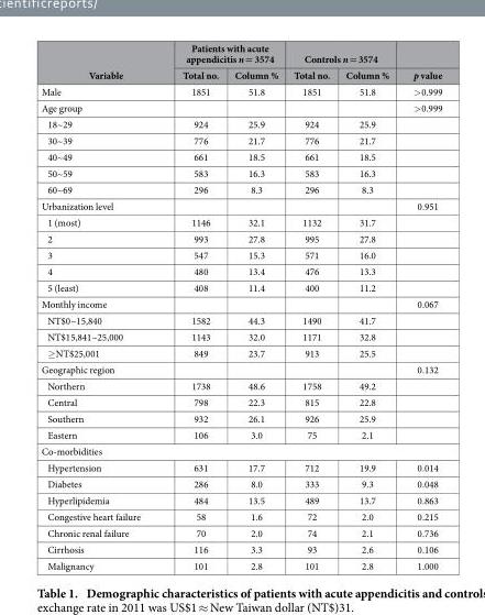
<table><thead><tr><td rowspan="2">Variable</td><td colspan="2">Patients with acute appendicitis n = 3574</td><td colspan="2">Controls n = 3574</td><td rowspan="2">p value</td></tr><tr><td>Total no.</td><td>Column %</td><td>Total no.</td><td>Column %</td></tr></thead><tbody><tr><td>Male</td><td>1851</td><td>51.8</td><td>1851</td><td>51.8</td><td>&gt; 0.999</td></tr><tr><td>Age group</td><td></td><td></td><td></td><td></td><td>&gt; 0.999</td></tr><tr><td>18~29</td><td>924</td><td>25.9</td><td>924</td><td>25.9</td><td></td></tr><tr><td>30~39</td><td>776</td><td>21.7</td><td>776</td><td>21.7</td><td></td></tr><tr><td>40~49</td><td>661</td><td>18.5</td><td>661</td><td>18.5</td><td></td></tr><tr><td>50~59</td><td>583</td><td>16.3</td><td>583</td><td>16.3</td><td></td></tr><tr><td>60~69</td><td>296</td><td>8.3</td><td>296</td><td>8.3</td><td></td></tr><tr><td>Urbanization level</td><td></td><td></td><td></td><td></td><td>0.951</td></tr><tr><td>1 (most)</td><td>1146</td><td>32.1</td><td>1132</td><td>31.7</td><td></td></tr><tr><td>2</td><td>993</td><td>27.8</td><td>995</td><td>27.8</td><td></td></tr><tr><td>3</td><td>547</td><td>15.3</td><td>571</td><td>16.0</td><td></td></tr><tr><td>4</td><td>480</td><td>13.4</td><td>476</td><td>13.3</td><td></td></tr><tr><td>5 (least)</td><td>408</td><td>11.4</td><td>400</td><td>11.2</td><td></td></tr><tr><td>Monthly income</td><td></td><td></td><td></td><td></td><td>0.067</td></tr><tr><td>NT$0~15,840</td><td>1582</td><td>44.3</td><td>1490</td><td>41.7</td><td></td></tr><tr><td>NT$15,841~25,000</td><td>1143</td><td>32.0</td><td>1171</td><td>32.8</td><td></td></tr><tr><td>≥ NT$25,001</td><td>849</td><td>23.7</td><td>913</td><td>25.5</td><td></td></tr><tr><td>Geographic region</td><td></td><td></td><td></td><td></td><td>0.132</td></tr><tr><td>Northern</td><td>1738</td><td>48.6</td><td>1758</td><td>49.2</td><td></td></tr><tr><td>Central</td><td>798</td><td>22.3</td><td>815</td><td>22.8</td><td></td></tr><tr><td>Southern</td><td>932</td><td>26.1</td><td>926</td><td>25.9</td><td></td></tr><tr><td>Eastern</td><td>106</td><td>3.0</td><td>75</td><td>2.1</td><td></td></tr><tr><td colspan="6">Co-morbidities</td></tr><tr><td>Hypertension</td><td>631</td><td>17.7</td><td>712</td><td>19.9</td><td>0.014</td></tr><tr><td>Diabetes</td><td>286</td><td>8.0</td><td>333</td><td>9.3</td><td>0.048</td></tr><tr><td>Hyperlipidemia</td><td>484</td><td>13.5</td><td>489</td><td>13.7</td><td>0.863</td></tr><tr><td>Congestive heart failure</td><td>58</td><td>1.6</td><td>72</td><td>2.0</td><td>0.215</td></tr><tr><td>Chronic renal failure</td><td>70</td><td>2.0</td><td>74</td><td>2.1</td><td>0.736</td></tr><tr><td>Cirrhosis</td><td>116</td><td>3.3</td><td>93</td><td>2.6</td><td>0.106</td></tr><tr><td>Malignancy</td><td>101</td><td>2.8</td><td>101</td><td>2.8</td><td>1.000</td></tr></tbody></table>